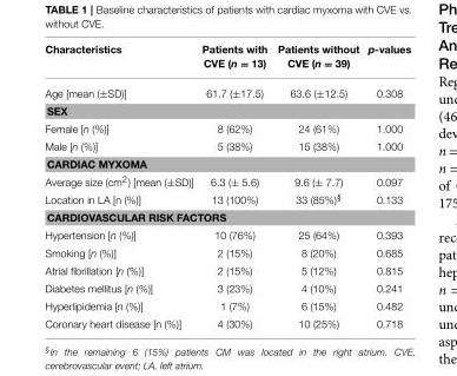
<table><thead><tr><td>Characteristics</td><td>Patients with CVE (n = 13)</td><td>Patients without CVE (n = 39)</td><td>p-values</td></tr></thead><tbody><tr><td>Age [mean (±SD)]</td><td>61.7 (±17.5)</td><td>63.6 (±12.5)</td><td>0.308</td></tr><tr><td colspan="4">SEX</td></tr><tr><td>Female [n (%)]</td><td>8 (62%)</td><td>24 (61%)</td><td>1.000</td></tr><tr><td>Male [n (%)]</td><td>5 (38%)</td><td>15 (38%)</td><td>1.000</td></tr><tr><td colspan="4">CARDIAC MYXOMA</td></tr><tr><td>Average size (cm<sup>2</sup>) [mean (±SD)]</td><td>6.3 (± 5.6)</td><td>9.6 (± 7.7)</td><td>0.097</td></tr><tr><td>Location in LA [n (%)]</td><td>13 (100%)</td><td>33 (85%)<sup>§</sup></td><td>0.133</td></tr><tr><td colspan="4">CARDIOVASCULAR RISK FACTORS</td></tr><tr><td>Hypertension [n (%)]</td><td>10 (76%)</td><td>25 (64%)</td><td>0.393</td></tr><tr><td>Smoking [n (%)]</td><td>2 (15%)</td><td>8 (20%)</td><td>0.685</td></tr><tr><td>Atrial fibrillation [n (%)]</td><td>2 (15%)</td><td>5 (12%)</td><td>0.815</td></tr><tr><td>Diabetes mellitus [n (%)]</td><td>3 (23%)</td><td>4 (10%)</td><td>0.241</td></tr><tr><td>Hyperlipidemia [n (%)]</td><td>1 (7%)</td><td>6 (15%)</td><td>0.482</td></tr><tr><td>Coronary heart disease [n (%)]</td><td>4 (30%)</td><td>10 (25%)</td><td>0.718</td></tr></tbody></table>